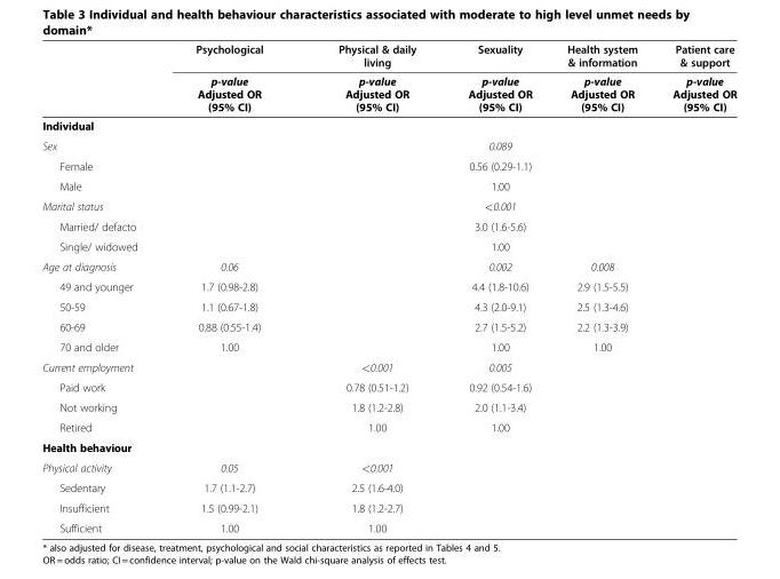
<table><thead><tr><td rowspan="2"></td><td rowspan="2">Psychological p-value Adjusted OR (95% CI)</td><td rowspan="2">Physical &amp; daily living p-value Adjusted OR (95% CI)</td><td rowspan="2">Sexuality p-value Adjusted OR (95% CI)</td><td rowspan="2">Health system &amp; information p-value Adjusted OR (95% CI)</td><td rowspan="2">Patient care &amp; support p-value Adjusted OR (95% CI)</td></tr><tr></tr></thead><tbody><tr><td colspan="6">Individual</td></tr><tr><td>Sex</td><td></td><td></td><td>0.089</td><td></td><td></td></tr><tr><td>Female</td><td></td><td></td><td>0.56 (0.29-1.1)</td><td></td><td></td></tr><tr><td>Male</td><td></td><td></td><td>1.00</td><td></td><td></td></tr><tr><td>Marital status</td><td></td><td></td><td>&lt;0.001</td><td></td><td></td></tr><tr><td>Married/ defacto</td><td></td><td></td><td>3.0 (1.6-5.6)</td><td></td><td></td></tr><tr><td>Single/ widowed</td><td></td><td></td><td>1.00</td><td></td><td></td></tr><tr><td>Age at diagnosis</td><td>0.06</td><td></td><td>0.002</td><td>0.008</td><td></td></tr><tr><td>49 and younger</td><td>1.7 (0.98-2.8)</td><td></td><td>4.4 (1.8-10.6)</td><td>2.9 (1.5-5.5)</td><td></td></tr><tr><td>50-59</td><td>1.1 (0.67-1.8)</td><td></td><td>4.3 (2.0-9.1)</td><td>2.5 (1.3-4.6)</td><td></td></tr><tr><td>60-69</td><td>0.88 (0.55-1.4)</td><td></td><td>2.7 (1.5-5.2)</td><td>2.2 (1.3-3.9)</td><td></td></tr><tr><td>70 and older</td><td>1.00</td><td></td><td>1.00</td><td>1.00</td><td></td></tr><tr><td>Current employment</td><td></td><td>&lt;0.001</td><td>0.005</td><td></td><td></td></tr><tr><td>Paid work</td><td></td><td>0.78 (0.51-1.2)</td><td>0.92 (0.54-1.6)</td><td></td><td></td></tr><tr><td>Not working</td><td></td><td>1.8 (1.2-2.8)</td><td>2.0 (1.1-3.4)</td><td></td><td></td></tr><tr><td>Retired</td><td></td><td>1.00</td><td>1.00</td><td></td><td></td></tr><tr><td colspan="6">Health behaviour</td></tr><tr><td>Physical activity</td><td>0.05</td><td>&lt;0.001</td><td></td><td></td><td></td></tr><tr><td>Sedentary</td><td>1.7 (1.1-2.7)</td><td>2.5 (1.6-4.0)</td><td></td><td></td><td></td></tr><tr><td>Insufficient</td><td>1.5 (0.99-2.1)</td><td>1.8 (1.2-2.7)</td><td></td><td></td><td></td></tr><tr><td>Sufficient</td><td>1.00</td><td>1.00</td><td></td><td></td><td></td></tr></tbody></table>